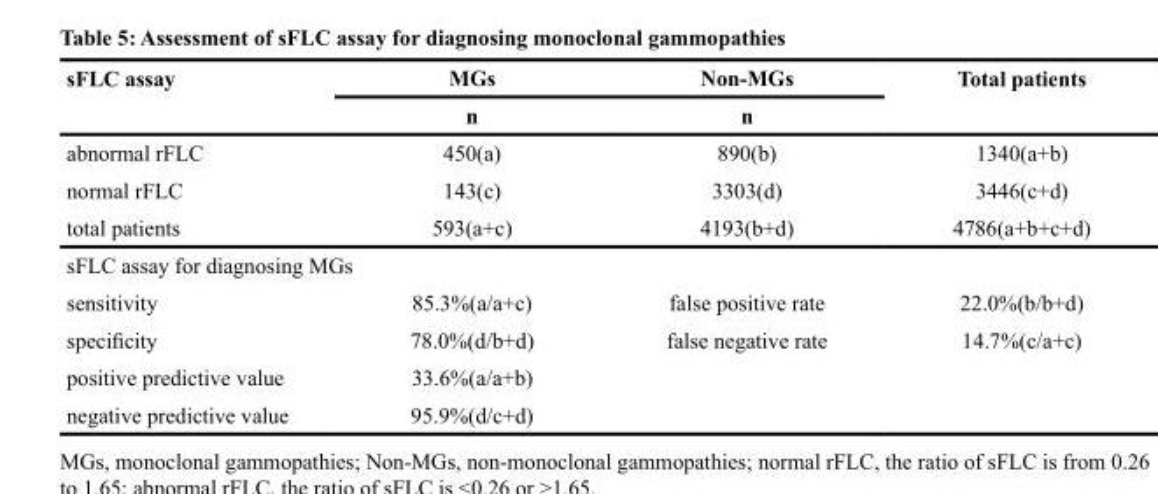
<table><thead><tr><td rowspan="2">sFLC assay</td><td rowspan="2">MGs n</td><td rowspan="2">Non-MGs n</td><td rowspan="2">Total patients</td></tr><tr></tr></thead><tbody><tr><td>abnormal rFLC</td><td>450(a)</td><td>890(b)</td><td>1340(a+b)</td></tr><tr><td>normal rFLC</td><td>143(c)</td><td>3303(d)</td><td>3446(c+d)</td></tr><tr><td>total patients</td><td>593(a+c)</td><td>4193(b+d)</td><td>4786(a+b+c+d)</td></tr><tr><td colspan="4">sFLC assay for diagnosing MGs</td></tr><tr><td>sensitivity</td><td>85.3%(a/a+c)</td><td>false positive rate</td><td>22.0%(b/b+d)</td></tr><tr><td>specificity</td><td>78.0%(d/b+d)</td><td>false negative rate</td><td>14.7%(c/a+c)</td></tr><tr><td>positive predictive value</td><td>33.6%(a/a+b)</td><td></td><td></td></tr><tr><td>negative predictive value</td><td>95.9%(d/c+d)</td><td></td><td></td></tr></tbody></table>